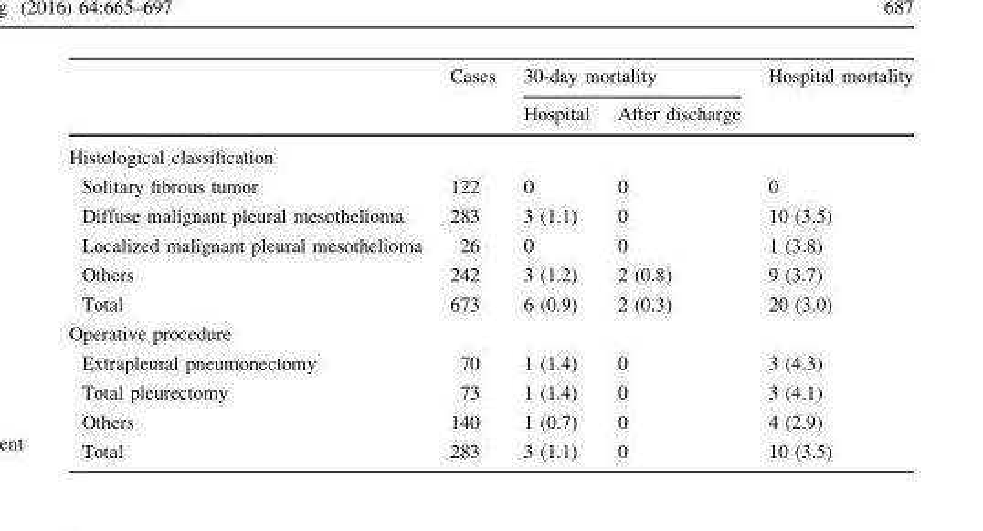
<table><thead><tr><td rowspan="2"></td><td rowspan="2">Cases</td><td colspan="2">30-day mortality</td><td rowspan="2">Hospital mortality</td></tr><tr><td>Hospital</td><td>After discharge</td></tr></thead><tbody><tr><td colspan="5">Histological classification</td></tr><tr><td>Solitary fibrous tumor</td><td>122</td><td>0</td><td>0</td><td>0</td></tr><tr><td>Diffuse malignant pleural mesothelioma</td><td>283</td><td>3 (1.1)</td><td>0</td><td>10 (3.5)</td></tr><tr><td>Localized malignant pleural mesothelioma</td><td>26</td><td>0</td><td>0</td><td>1 (3.8)</td></tr><tr><td>Others</td><td>242</td><td>3 (1.2)</td><td>2 (0.8)</td><td>9 (3.7)</td></tr><tr><td>Total</td><td>673</td><td>6 (0.9)</td><td>2 (0.3)</td><td>20 (3.0)</td></tr><tr><td colspan="5">Operative procedure</td></tr><tr><td>Extrapleural pneumonectomy</td><td>70</td><td>1 (1.4)</td><td>0</td><td>3 (4.3)</td></tr><tr><td>Total pleurectomy</td><td>73</td><td>1 (1.4)</td><td>0</td><td>3 (4.1)</td></tr><tr><td>Others</td><td>140</td><td>1 (0.7)</td><td>0</td><td>4 (2.9)</td></tr><tr><td>Total</td><td>283</td><td>3 (1.1)</td><td>0</td><td>10 (3.5)</td></tr></tbody></table>